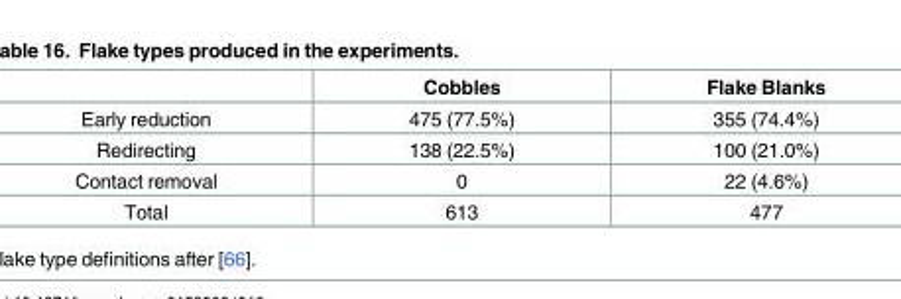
<table><thead><tr><td></td><td>Cobbles</td><td>Flake Blanks</td></tr></thead><tbody><tr><td>Early reduction</td><td>475 (77.5%)</td><td>355 (74.4%)</td></tr><tr><td>Redirecting</td><td>138 (22.5%)</td><td>100 (21.0%)</td></tr><tr><td>Contact removal</td><td>0</td><td>22 (4.6%)</td></tr><tr><td>Total</td><td>613</td><td>477</td></tr></tbody></table>